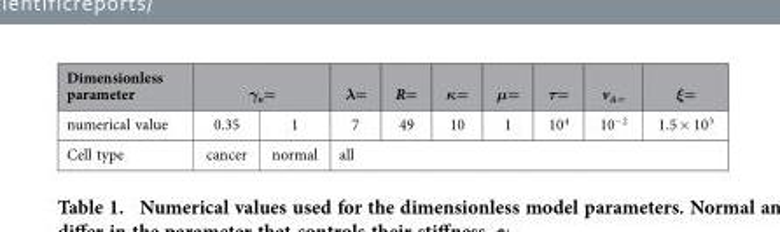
<table><thead><tr><td rowspan="2">Dimensionless parameter numerical value</td><td colspan="2">γ<sub>n</sub>=</td><td rowspan="2">λ= 7</td><td rowspan="2">R= 49</td><td rowspan="2">κ= 10</td><td rowspan="2">μ= 1</td><td rowspan="2">τ= 10<sup>4</sup></td><td rowspan="2">v<sub>A=</sub> 10<sup>−2</sup></td><td rowspan="2">ξ= 1.5 × 10<sup>3</sup></td></tr><tr><td>0.35</td><td>1</td></tr></thead><tbody><tr><td>Cell type</td><td>cancer</td><td>normal</td><td colspan="7">all</td></tr></tbody></table>